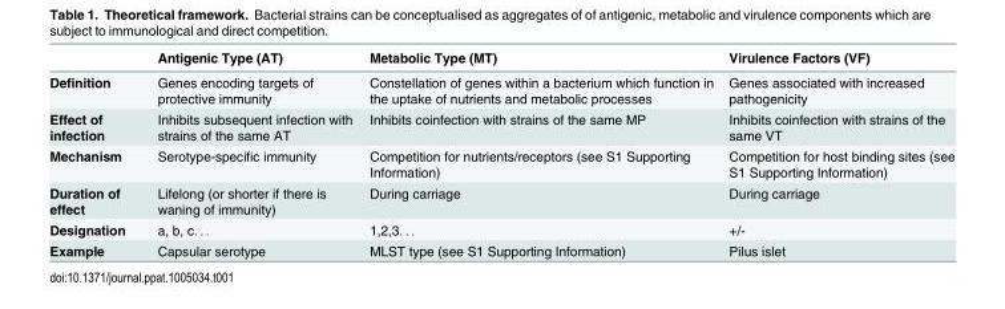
<table><thead><tr><td></td><td>Antigenic Type (AT)</td><td>Metabolic Type (MT)</td><td>Virulence Factors (VF)</td></tr></thead><tbody><tr><td>Definition</td><td>Genes encoding targets of protective immunity</td><td>Constellation of genes within a bacterium which function in the uptake of nutrients and metabolic processes</td><td>Genes associated with increased pathogenicity</td></tr><tr><td>Effect of infection</td><td>Inhibits subsequent infection with strains of the same AT</td><td>Inhibits coinfection with strains of the same MP</td><td>Inhibits coinfection with strains of the same VT</td></tr><tr><td>Mechanism</td><td>Serotype-specific immunity</td><td>Competition for nutrients/receptors (see S1 Supporting Information)</td><td>Competition for host binding sites (see S1 Supporting Information)</td></tr><tr><td>Duration of effect</td><td>Lifelong (or shorter if there is waning of immunity)</td><td>During carriage</td><td>During carriage</td></tr><tr><td>Designation</td><td>a, b, c. . .</td><td>1,2,3. . .</td><td>+/-</td></tr><tr><td>Example</td><td>Capsular serotype</td><td>MLST type (see S1 Supporting Information)</td><td>Pilus islet</td></tr></tbody></table>